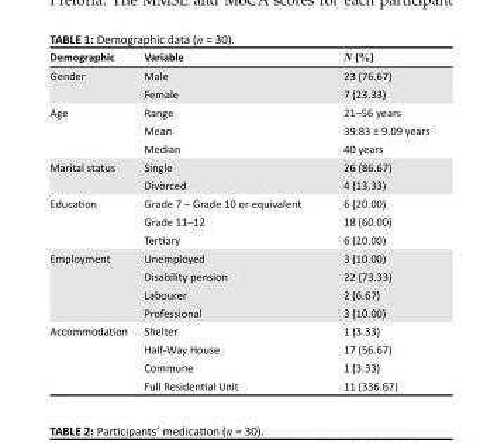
<table><thead><tr><td>Demographic</td><td>Variable</td><td>N (%)</td></tr></thead><tbody><tr><td rowspan="2">Gender</td><td>Male</td><td>23 (76.67)</td></tr><tr><td>Female</td><td>7 (23.33)</td></tr><tr><td rowspan="3">Age</td><td>Range</td><td>21–56 years</td></tr><tr><td>Mean</td><td>39.83 ± 9.09 years</td></tr><tr><td>Median</td><td>40 years</td></tr><tr><td rowspan="2">Marital status</td><td>Single</td><td>26 (86.67)</td></tr><tr><td>Divorced</td><td>4 (13.33)</td></tr><tr><td rowspan="3">Education</td><td>Grade 7 – Grade 10 or equivalent</td><td>6 (20.00)</td></tr><tr><td>Grade 11–12</td><td>18 (60.00)</td></tr><tr><td>Tertiary</td><td>6 (20.00)</td></tr><tr><td rowspan="4">Employment</td><td>Unemployed</td><td>3 (10.00)</td></tr><tr><td>Disability pension</td><td>22 (73.33)</td></tr><tr><td>Labourer</td><td>2 (6.67)</td></tr><tr><td>Professional</td><td>3 (10.00)</td></tr><tr><td rowspan="4">Accommodation</td><td>Shelter</td><td>1 (3.33)</td></tr><tr><td>Half-Way House</td><td>17 (56.67)</td></tr><tr><td>Commune</td><td>1 (3.33)</td></tr><tr><td>Full Residential Unit</td><td>11 (336.67)</td></tr></tbody></table>